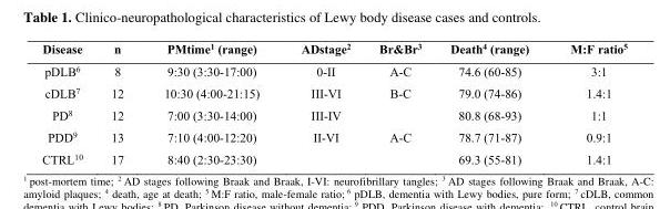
<table><thead><tr><td>Disease</td><td>n</td><td>PMtime<sup>1</sup> (range)</td><td>ADstage<sup>2</sup></td><td>Br&amp;Br<sup>3</sup></td><td>Death<sup>4</sup> (range)</td><td>M:F ratio<sup>5</sup></td></tr></thead><tbody><tr><td>pDLB<sup>6</sup></td><td>8</td><td>9:30 (3:30-17:00)</td><td>0-II</td><td>A-C</td><td>74.6 (60-85)</td><td>3:1</td></tr><tr><td>cDLB<sup>7</sup></td><td>12</td><td>10:30 (4:00-21:15)</td><td>III-VI</td><td>B-C</td><td>79.0 (74-86)</td><td>1.4:1</td></tr><tr><td>PD<sup>8</sup></td><td>12</td><td>7:00 (3:30-14:00)</td><td>III-IV</td><td></td><td>80.8 (68-93)</td><td>1:1</td></tr><tr><td>PDD<sup>9</sup></td><td>13</td><td>7:10 (4:00-12:20)</td><td>II-VI</td><td>A-C</td><td>78.7 (71-87)</td><td>0.9:1</td></tr><tr><td>CTRL<sup>10</sup></td><td>17</td><td>8:40 (2:30-23:30)</td><td></td><td></td><td>69.3 (55-81)</td><td>1.4:1</td></tr></tbody></table>